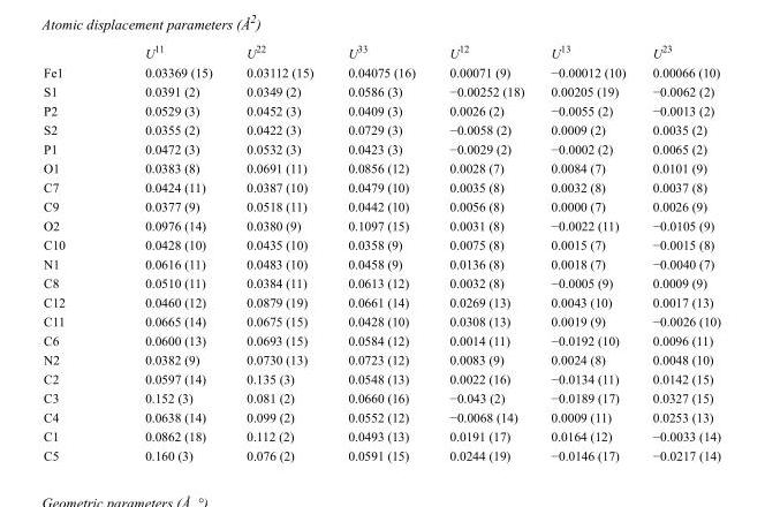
<table><thead><tr><td></td><td>U<sup>11</sup></td><td>U<sup>22</sup></td><td>U<sup>33</sup></td><td>U<sup>12</sup></td><td>U<sup>13</sup></td><td>U<sup>23</sup></td></tr></thead><tbody><tr><td>Fe1</td><td>0.03369 (15)</td><td>0.03112 (15)</td><td>0.04075 (16)</td><td>0.00071 (9)</td><td>−0.00012 (10)</td><td>0.00066 (10)</td></tr><tr><td>S1</td><td>0.0391 (2)</td><td>0.0349 (2)</td><td>0.0586 (3)</td><td>−0.00252 (18)</td><td>0.00205 (19)</td><td>−0.0062 (2)</td></tr><tr><td>P2</td><td>0.0529 (3)</td><td>0.0452 (3)</td><td>0.0409 (3)</td><td>0.0026 (2)</td><td>−0.0055 (2)</td><td>−0.0013 (2)</td></tr><tr><td>S2</td><td>0.0355 (2)</td><td>0.0422 (3)</td><td>0.0729 (3)</td><td>−0.0058 (2)</td><td>0.0009 (2)</td><td>0.0035 (2)</td></tr><tr><td>P1</td><td>0.0472 (3)</td><td>0.0532 (3)</td><td>0.0423 (3)</td><td>−0.0029 (2)</td><td>−0.0002 (2)</td><td>0.0065 (2)</td></tr><tr><td>O1</td><td>0.0383 (8)</td><td>0.0691 (11)</td><td>0.0856 (12)</td><td>0.0028 (7)</td><td>0.0084 (7)</td><td>0.0101 (9)</td></tr><tr><td>C7</td><td>0.0424 (11)</td><td>0.0387 (10)</td><td>0.0479 (10)</td><td>0.0035 (8)</td><td>0.0032 (8)</td><td>0.0037 (8)</td></tr><tr><td>C9</td><td>0.0377 (9)</td><td>0.0518 (11)</td><td>0.0442 (10)</td><td>0.0056 (8)</td><td>0.0000 (7)</td><td>0.0026 (9)</td></tr><tr><td>O2</td><td>0.0976 (14)</td><td>0.0380 (9)</td><td>0.1097 (15)</td><td>0.0031 (8)</td><td>−0.0022 (11)</td><td>−0.0105 (9)</td></tr><tr><td>C10</td><td>0.0428 (10)</td><td>0.0435 (10)</td><td>0.0358 (9)</td><td>0.0075 (8)</td><td>0.0015 (7)</td><td>−0.0015 (8)</td></tr><tr><td>N1</td><td>0.0616 (11)</td><td>0.0483 (10)</td><td>0.0458 (9)</td><td>0.0136 (8)</td><td>0.0018 (7)</td><td>−0.0040 (7)</td></tr><tr><td>C8</td><td>0.0510 (11)</td><td>0.0384 (11)</td><td>0.0613 (12)</td><td>0.0032 (8)</td><td>−0.0005 (9)</td><td>0.0009 (9)</td></tr><tr><td>C12</td><td>0.0460 (12)</td><td>0.0879 (19)</td><td>0.0661 (14)</td><td>0.0269 (13)</td><td>0.0043 (10)</td><td>0.0017 (13)</td></tr><tr><td>C11</td><td>0.0665 (14)</td><td>0.0675 (15)</td><td>0.0428 (10)</td><td>0.0308 (13)</td><td>0.0019 (9)</td><td>−0.0026 (10)</td></tr><tr><td>C6</td><td>0.0600 (13)</td><td>0.0693 (15)</td><td>0.0584 (12)</td><td>0.0014 (11)</td><td>−0.0192 (10)</td><td>0.0096 (11)</td></tr><tr><td>N2</td><td>0.0382 (9)</td><td>0.0730 (13)</td><td>0.0723 (12)</td><td>0.0083 (9)</td><td>0.0024 (8)</td><td>0.0048 (10)</td></tr><tr><td>C2</td><td>0.0597 (14)</td><td>0.135 (3)</td><td>0.0548 (13)</td><td>0.0022 (16)</td><td>−0.0134 (11)</td><td>0.0142 (15)</td></tr><tr><td>C3</td><td>0.152 (3)</td><td>0.081 (2)</td><td>0.0660 (16)</td><td>−0.043 (2)</td><td>−0.0189 (17)</td><td>0.0327 (15)</td></tr><tr><td>C4</td><td>0.0638 (14)</td><td>0.099 (2)</td><td>0.0552 (12)</td><td>−0.0068 (14)</td><td>0.0009 (11)</td><td>0.0253 (13)</td></tr><tr><td>C1</td><td>0.0862 (18)</td><td>0.112 (2)</td><td>0.0493 (13)</td><td>0.0191 (17)</td><td>0.0164 (12)</td><td>−0.0033 (14)</td></tr><tr><td>C5</td><td>0.160 (3)</td><td>0.076 (2)</td><td>0.0591 (15)</td><td>0.0244 (19)</td><td>−0.0146 (17)</td><td>−0.0217 (14)</td></tr></tbody></table>